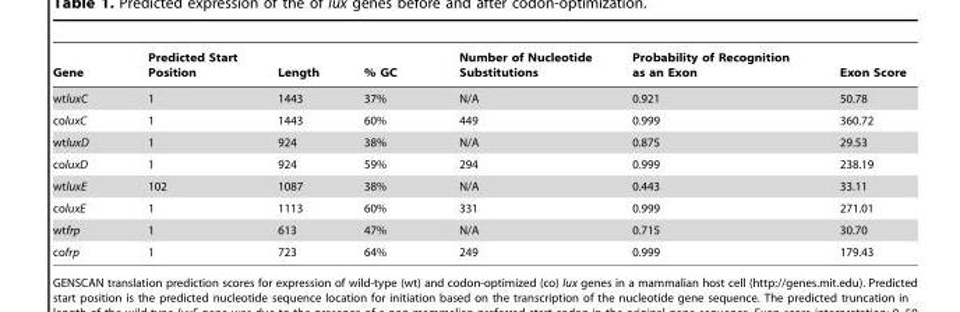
<table><thead><tr><td>Gene</td><td>Predicted Start Position</td><td>Length</td><td>% GC</td><td>Number of Nucleotide Substitutions</td><td>Probability of Recognition as an Exon</td><td>Exon Score</td></tr></thead><tbody><tr><td>wtluxC</td><td>1</td><td>1443</td><td>37%</td><td>N/A</td><td>0.921</td><td>50.78</td></tr><tr><td>coluxC</td><td>1</td><td>1443</td><td>60%</td><td>449</td><td>0.999</td><td>360.72</td></tr><tr><td>wtluxD</td><td>1</td><td>924</td><td>38%</td><td>N/A</td><td>0.875</td><td>29.53</td></tr><tr><td>coluxD</td><td>1</td><td>924</td><td>59%</td><td>294</td><td>0.999</td><td>238.19</td></tr><tr><td>wtluxE</td><td>102</td><td>1087</td><td>38%</td><td>N/A</td><td>0.443</td><td>33.11</td></tr><tr><td>coluxE</td><td>1</td><td>1113</td><td>60%</td><td>331</td><td>0.999</td><td>271.01</td></tr><tr><td>wtfrp</td><td>1</td><td>613</td><td>47%</td><td>N/A</td><td>0.715</td><td>30.70</td></tr><tr><td>cofrp</td><td>1</td><td>723</td><td>64%</td><td>249</td><td>0.999</td><td>179.43</td></tr></tbody></table>